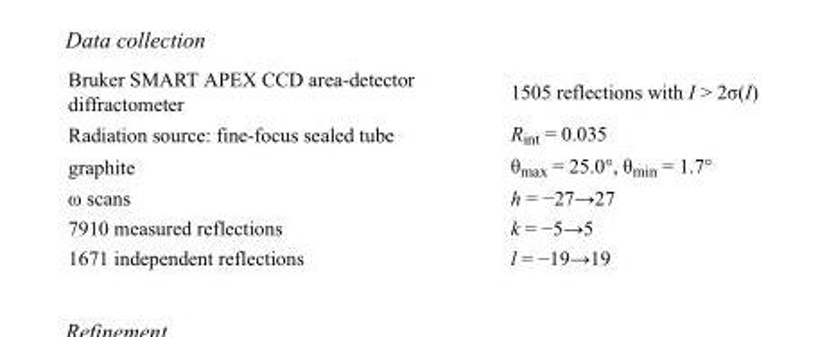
<table><tbody><tr><td>Bruker SMART APEX CCD area-detector diffractometer</td><td>1505 reflections with I &gt; 2σ(I)</td></tr><tr><td>Radiation source: fine-focus sealed tube</td><td>R<sub>int</sub> = 0.035</td></tr><tr><td>graphite</td><td>θ<sub>max</sub> = 25.0°, θ<sub>min</sub> = 1.7°</td></tr><tr><td>ω scans</td><td>h = −27→27</td></tr><tr><td>7910 measured reflections</td><td>k = −5→5</td></tr><tr><td>1671 independent reflections</td><td>l = −19→19</td></tr></tbody></table>